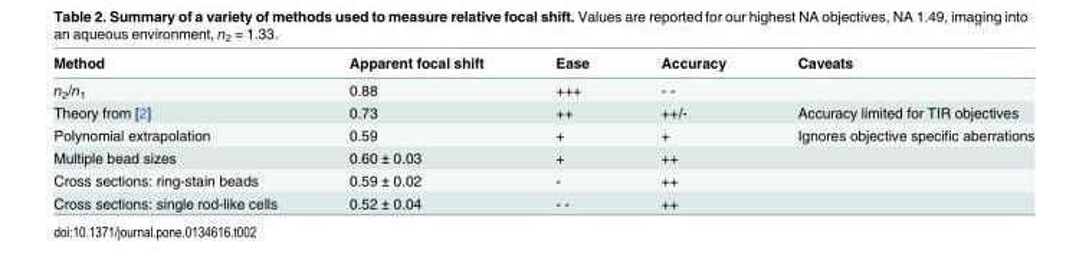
<table><thead><tr><td>Method</td><td>Apparent focal shift</td><td>Ease</td><td>Accuracy</td><td>Caveats</td></tr></thead><tbody><tr><td>n<sub>2</sub>/n<sub>1</sub></td><td>0.88</td><td>+++</td><td>- -</td><td></td></tr><tr><td>Theory from [2]</td><td>0.73</td><td>++</td><td>++/-</td><td>Accuracy limited for TIR objectives</td></tr><tr><td>Polynomial extrapolation</td><td>0.59</td><td>+</td><td>+</td><td>Ignores objective specific aberrations</td></tr><tr><td>Multiple bead sizes</td><td>0.60 ± 0.03</td><td>+</td><td>++</td><td></td></tr><tr><td>Cross sections: ring-stain beads</td><td>0.59 ± 0.02</td><td>-</td><td>++</td><td></td></tr><tr><td>Cross sections: single rod-like cells</td><td>0.52 ± 0.04</td><td>- -</td><td>++</td><td></td></tr></tbody></table>